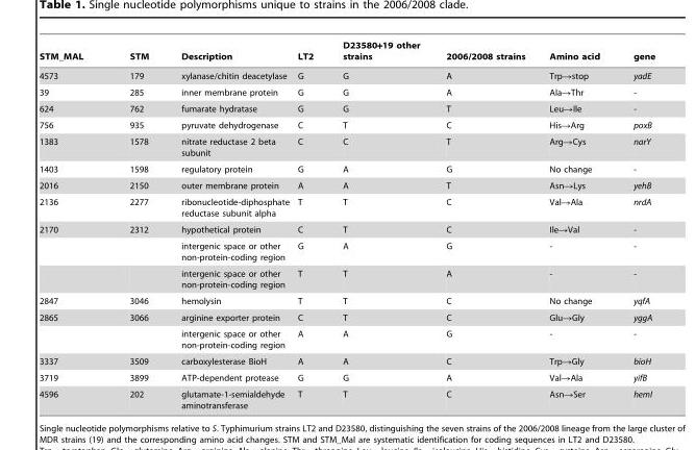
<table><thead><tr><td>STM_MAL</td><td>STM</td><td>Description</td><td>LT2</td><td>D23580+19 other strains</td><td>2006/2008 strains</td><td>Amino acid</td><td>gene</td></tr></thead><tbody><tr><td>4573</td><td>179</td><td>xylanase/chitin deacetylase</td><td>G</td><td>G</td><td>A</td><td>Trp→stop</td><td>yadE</td></tr><tr><td>39</td><td>285</td><td>inner membrane protein</td><td>G</td><td>G</td><td>A</td><td>Ala→Thr</td><td>-</td></tr><tr><td>624</td><td>762</td><td>fumarate hydratase</td><td>G</td><td>G</td><td>T</td><td>Leu→Ile</td><td>-</td></tr><tr><td>756</td><td>935</td><td>pyruvate dehydrogenase</td><td>C</td><td>T</td><td>C</td><td>His→Arg</td><td>poxB</td></tr><tr><td>1383</td><td>1578</td><td>nitrate reductase 2 beta subunit</td><td>C</td><td>C</td><td>T</td><td>Arg→Cys</td><td>narY</td></tr><tr><td>1403</td><td>1598</td><td>regulatory protein</td><td>G</td><td>A</td><td>G</td><td>No change</td><td>-</td></tr><tr><td>2016</td><td>2150</td><td>outer membrane protein</td><td>A</td><td>A</td><td>T</td><td>Asn→Lys</td><td>yehB</td></tr><tr><td>2136</td><td>2277</td><td>ribonucleotide-diphosphate reductase subunit alpha</td><td>T</td><td>T</td><td>C</td><td>Val→Ala</td><td>nrdA</td></tr><tr><td rowspan="3">2170</td><td>2312</td><td>hypothetical protein</td><td>C</td><td>T</td><td>C</td><td>Ile→Val</td><td>-</td></tr><tr><td></td><td>intergenic space or other non-protein-coding region</td><td>G</td><td>A</td><td>G</td><td>-</td><td>-</td></tr><tr><td></td><td>intergenic space or other non-protein-coding region</td><td>T</td><td>T</td><td>A</td><td>-</td><td>-</td></tr><tr><td>2847</td><td>3046</td><td>hemolysin</td><td>T</td><td>T</td><td>C</td><td>No change</td><td>yqfA</td></tr><tr><td rowspan="2">2865</td><td>3066</td><td>arginine exporter protein</td><td>C</td><td>T</td><td>C</td><td>Glu→Gly</td><td>yggA</td></tr><tr><td></td><td>intergenic space or other non-protein-coding region</td><td>A</td><td>A</td><td>G</td><td>-</td><td>-</td></tr><tr><td>3337</td><td>3509</td><td>carboxylesterase BioH</td><td>A</td><td>A</td><td>C</td><td>Trp→Gly</td><td>bioH</td></tr><tr><td>3719</td><td>3899</td><td>ATP-dependent protease</td><td>G</td><td>G</td><td>A</td><td>Val→Ala</td><td>yifB</td></tr><tr><td>4596</td><td>202</td><td>glutamate-1-semialdehyde aminotransferase</td><td>T</td><td>T</td><td>C</td><td>Asn→Ser</td><td>hemI</td></tr></tbody></table>